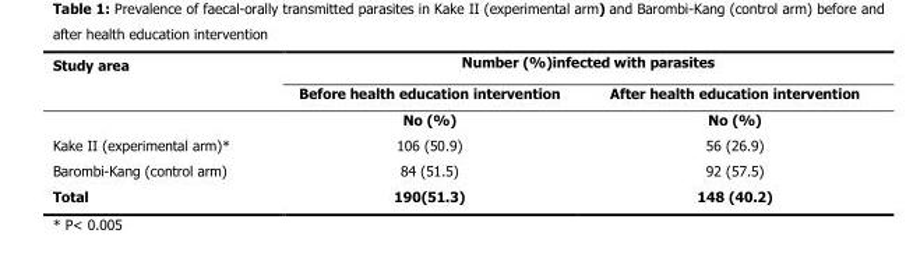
<table><thead><tr><td rowspan="2">Study area</td><td colspan="2">Number (%)infected with parasites</td></tr><tr><td>Before health education intervention</td><td>After health education intervention</td></tr></thead><tbody><tr><td></td><td>No (%)</td><td>No (%)</td></tr><tr><td>Kake II (experimental arm)*</td><td>106 (50.9)</td><td>56 (26.9)</td></tr><tr><td>Barombi-Kang (control arm)</td><td>84 (51.5)</td><td>92 (57.5)</td></tr><tr><td>Total</td><td>190(51.3)</td><td>148 (40.2)</td></tr></tbody></table>